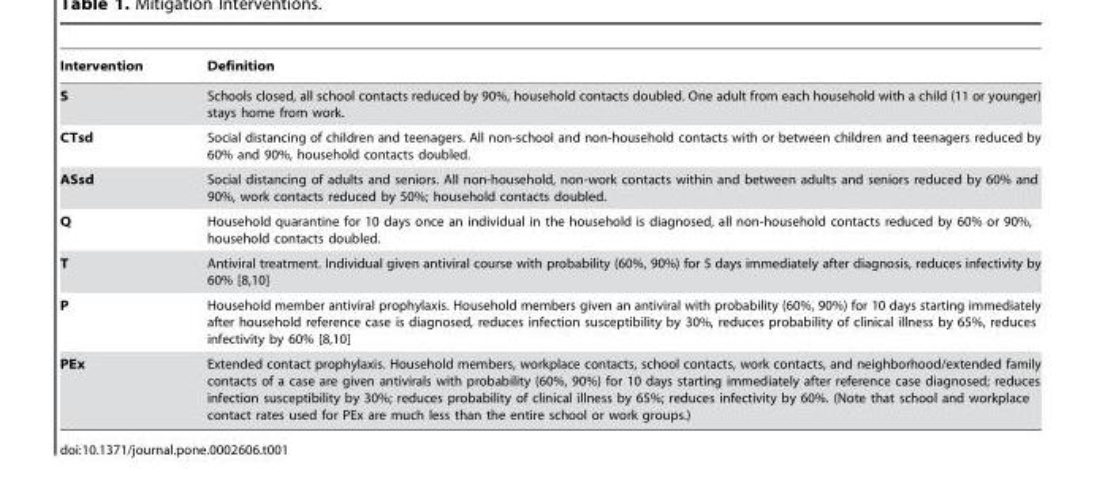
<table><thead><tr><td>Intervention</td><td>Definition</td></tr></thead><tbody><tr><td>S</td><td>Schools closed, all school contacts reduced by 90%, household contacts doubled. One adult from each household with a child (11 or younger) stays home from work.</td></tr><tr><td>CTsd</td><td>Social distancing of children and teenagers. All non-school and non-household contacts with or between children and teenagers reduced by 60% and 90%, household contacts doubled.</td></tr><tr><td>ASsd</td><td>Social distancing of adults and seniors. All non-household, non-work contacts within and between adults and seniors reduced by 60% and 90%, work contacts reduced by 50%; household contacts doubled.</td></tr><tr><td>Q</td><td>Household quarantine for 10 days once an individual in the household is diagnosed, all non-household contacts reduced by 60% or 90%, household contacts doubled.</td></tr><tr><td>T</td><td>Antiviral treatment. Individual given antiviral course with probability (60%, 90%) for 5 days immediately after diagnosis, reduces infectivity by 60% [8,10]</td></tr><tr><td>P</td><td>Household member antiviral prophylaxis. Household members given an antiviral with probability (60%, 90%) for 10 days starting immediately after household reference case is diagnosed, reduces infection susceptibility by 30%, reduces probability of clinical illness by 65%, reduces infectivity by 60% [8,10]</td></tr><tr><td>PEx</td><td>Extended contact prophylaxis. Household members, workplace contacts, school contacts, work contacts, and neighborhood/extended family contacts of a case are given antivirals with probability (60%, 90%) for 10 days starting immediately after reference case diagnosed; reduces infection susceptibility by 30%; reduces probability of clinical illness by 65%; reduces infectivity by 60%. (Note that school and workplace contact rates used for PEx are much less than the entire school or work groups.)</td></tr></tbody></table>